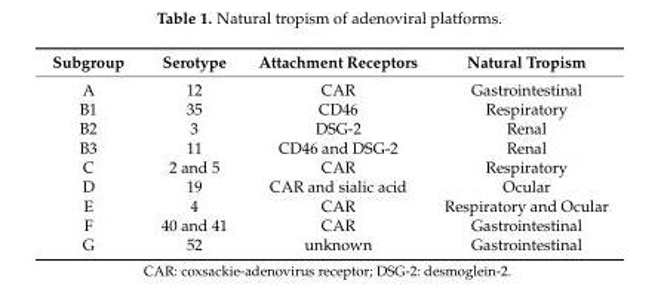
<table><thead><tr><td>Subgroup</td><td>Serotype</td><td>Attachment Receptors</td><td>Natural Tropism</td></tr></thead><tbody><tr><td>A</td><td>12</td><td>CAR</td><td>Gastrointestinal</td></tr><tr><td>B1</td><td>35</td><td>CD46</td><td>Respiratory</td></tr><tr><td>B2</td><td>3</td><td>DSG-2</td><td>Renal</td></tr><tr><td>B3</td><td>11</td><td>CD46 and DSG-2</td><td>Renal</td></tr><tr><td>C</td><td>2 and 5</td><td>CAR</td><td>Respiratory</td></tr><tr><td>D</td><td>19</td><td>CAR and sialic acid</td><td>Ocular</td></tr><tr><td>E</td><td>4</td><td>CAR</td><td>Respiratory and Ocular</td></tr><tr><td>F</td><td>40 and 41</td><td>CAR</td><td>Gastrointestinal</td></tr><tr><td>G</td><td>52</td><td>unknown</td><td>Gastrointestinal</td></tr></tbody></table>